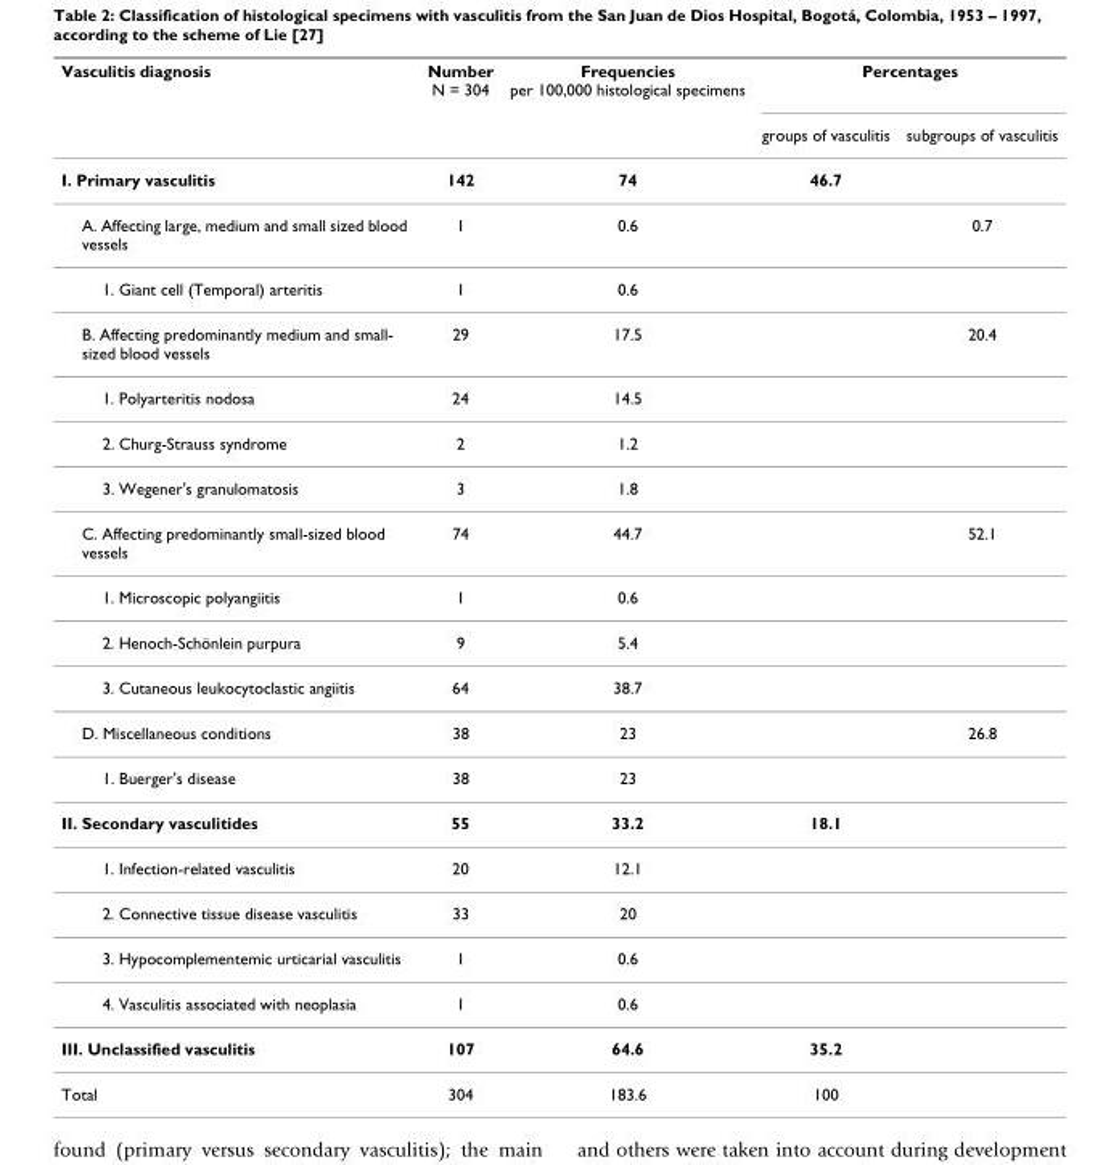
<table><thead><tr><td rowspan="2">Vasculitis diagnosis</td><td rowspan="2">Number N = 304</td><td rowspan="2">Frequencies per 100,000 histological specimens</td><td colspan="2">Percentages</td></tr><tr><td>groups of vasculitis</td><td>subgroups of vasculitis</td></tr></thead><tbody><tr><td>I. Primary vasculitis</td><td>142</td><td>74</td><td>46.7</td><td></td></tr><tr><td>A. Affecting large, medium and small sized blood vessels</td><td>1</td><td>0.6</td><td></td><td>0.7</td></tr><tr><td>1. Giant cell (Temporal) arteritis</td><td>1</td><td>0.6</td><td></td><td></td></tr><tr><td>B. Affecting predominantly medium and small- sized blood vessels</td><td>29</td><td>17.5</td><td></td><td>20.4</td></tr><tr><td>1. Polyarteritis nodosa</td><td>24</td><td>14.5</td><td></td><td></td></tr><tr><td>2. Churg-Strauss syndrome</td><td>2</td><td>1.2</td><td></td><td></td></tr><tr><td>3. Wegener&#x27;s granulomatosis</td><td>3</td><td>1.8</td><td></td><td></td></tr><tr><td>C. Affecting predominantly small-sized blood vessels</td><td>74</td><td>44.7</td><td></td><td>52.1</td></tr><tr><td>1. Microscopic polyangiitis</td><td>1</td><td>0.6</td><td></td><td></td></tr><tr><td>2. Henoch-Schönlein purpura</td><td>9</td><td>5.4</td><td></td><td></td></tr><tr><td>3. Cutaneous leukocytoclastic angiitis</td><td>64</td><td>38.7</td><td></td><td></td></tr><tr><td>D. Miscellaneous conditions</td><td>38</td><td>23</td><td></td><td>26.8</td></tr><tr><td>1. Buerger&#x27;s disease</td><td>38</td><td>23</td><td></td><td></td></tr><tr><td>II. Secondary vasculitides</td><td>55</td><td>33.2</td><td>18.1</td><td></td></tr><tr><td>1. Infection-related vasculitis</td><td>20</td><td>12.1</td><td></td><td></td></tr><tr><td>2. Connective tissue disease vasculitis</td><td>33</td><td>20</td><td></td><td></td></tr><tr><td>3. Hypocomplementemic urticarial vasculitis</td><td>1</td><td>0.6</td><td></td><td></td></tr><tr><td>4. Vasculitis associated with neoplasia</td><td>1</td><td>0.6</td><td></td><td></td></tr><tr><td>III. Unclassified vasculitis</td><td>107</td><td>64.6</td><td>35.2</td><td></td></tr><tr><td>Total</td><td>304</td><td>183.6</td><td>100</td><td></td></tr></tbody></table>